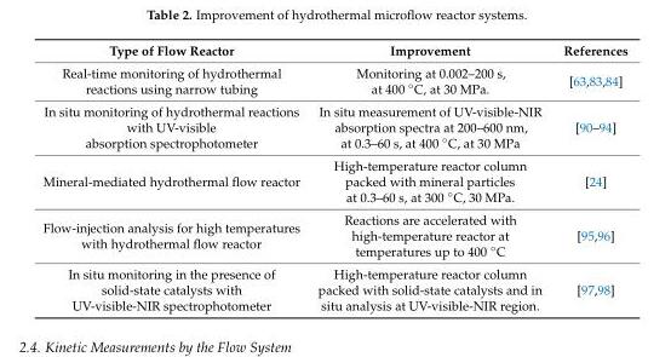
<table><thead><tr><td>Type of Flow Reactor</td><td>Improvement</td><td>References</td></tr></thead><tbody><tr><td>Real-time monitoring of hydrothermal reactions using narrow tubing</td><td>Monitoring at 0.002–200 s, at 400 ◦C, at 30 MPa.</td><td>[63,83,84]</td></tr><tr><td>In situ monitoring of hydrothermal reactions with UV-visible absorption spectrophotometer</td><td>In situ measurement of UV-visible-NIR absorption spectra at 200–600 nm, at 0.3–60 s, at 400 ◦C, at 30 MPa</td><td>[90–94]</td></tr><tr><td>Mineral-mediated hydrothermal flow reactor</td><td>High-temperature reactor column packed with mineral particles at 0.3–60 s, at 300 ◦C, 30 MPa.</td><td>[24]</td></tr><tr><td>Flow-injection analysis for high temperatures with hydrothermal flow reactor</td><td>Reactions are accelerated with high-temperature reactor at temperatures up to 400 ◦C</td><td>[95,96]</td></tr><tr><td>In situ monitoring in the presence of solid-state catalysts with UV-visible-NIR spectrophotometer</td><td>High-temperature reactor column packed with solid-state catalysts and in situ analysis at UV-visible-NIR region.</td><td>[97,98]</td></tr></tbody></table>